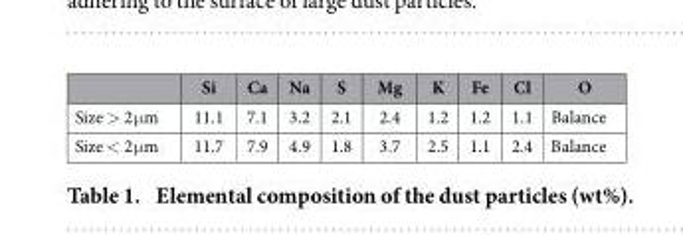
<table><thead><tr><td></td><td>Si</td><td>Ca</td><td>Na</td><td>S</td><td>Mg</td><td>K</td><td>Fe</td><td>Cl</td><td>O</td></tr></thead><tbody><tr><td>Size &gt; 2 μ m</td><td>11.1</td><td>7.1</td><td>3.2</td><td>2.1</td><td>2.4</td><td>1.2</td><td>1.2</td><td>1.1</td><td>Balance</td></tr><tr><td>Size &lt; 2 μ m</td><td>11.7</td><td>7.9</td><td>4.9</td><td>1.8</td><td>3.7</td><td>2.5</td><td>1.1</td><td>2.4</td><td>Balance</td></tr></tbody></table>